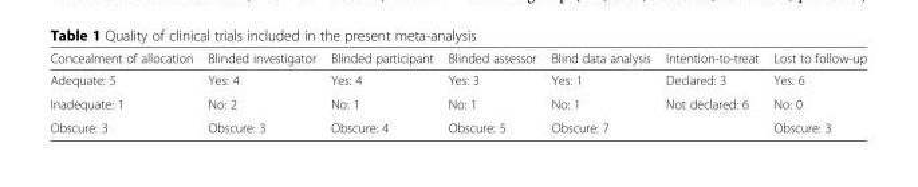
<table><thead><tr><td>Concealment of allocation</td><td>Blinded investigator</td><td>Blinded participant</td><td>Blinded assessor</td><td>Blind data analysis</td><td>Intention-to-treat</td><td>Lost to follow-up</td></tr></thead><tbody><tr><td>Adequate: 5</td><td>Yes: 4</td><td>Yes: 4</td><td>Yes: 3</td><td>Yes: 1</td><td>Declared: 3</td><td>Yes: 6</td></tr><tr><td>Inadequate: 1</td><td>No: 2</td><td>No: 1</td><td>No: 1</td><td>No: 1</td><td>Not declared: 6</td><td>No: 0</td></tr><tr><td>Obscure: 3</td><td>Obscure: 3</td><td>Obscure: 4</td><td>Obscure: 5</td><td>Obscure: 7</td><td></td><td>Obscure: 3</td></tr></tbody></table>